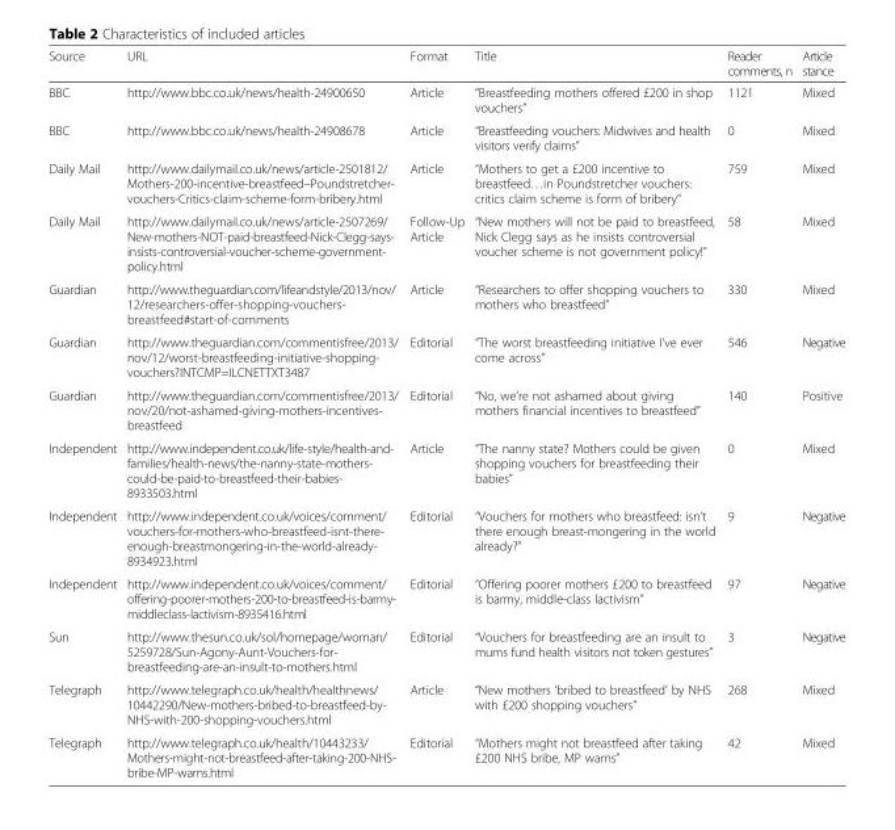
<table><thead><tr><td>Source</td><td>URL</td><td>Format</td><td>Title</td><td>Reader comments, n</td><td>Article stance</td></tr></thead><tbody><tr><td>BBC</td><td>http://www.bbc.co.uk/news/health-24900650</td><td>Article</td><td>“Breastfeeding mothers offered £200 in shop vouchers”</td><td>1121</td><td>Mixed</td></tr><tr><td>BBC</td><td>http://www.bbc.co.uk/news/health-24908678</td><td>Article</td><td>“Breastfeeding vouchers: Midwives and health visitors verify claims”</td><td>0</td><td>Mixed</td></tr><tr><td>Daily Mail</td><td>http://www.dailymail.co.uk/news/article-2501812/ Mothers-200-incentive-breastfeed–Poundstretcher- vouchers-Critics-claim-scheme-form-bribery.html</td><td>Article</td><td>“Mothers to get a £200 incentive to breastfeed…in Poundstretcher vouchers: critics claim scheme is form of bribery&quot;</td><td>759</td><td>Mixed</td></tr><tr><td>Daily Mail</td><td>http://www.dailymail.co.uk/news/article-2507269/ New-mothers-NOT-paid-breastfeed-Nick-Clegg-says- insists-controversial-voucher-scheme-government- policy.html</td><td>Follow-Up Article</td><td>“New mothers will not be paid to breastfeed, Nick Clegg says as he insists controversial voucher scheme is not government policy!”</td><td>58</td><td>Mixed</td></tr><tr><td>Guardian</td><td>http://www.theguardian.com/lifeandstyle/2013/nov/ 12/researchers-offer-shopping-vouchers- breastfeed#start-of-comments</td><td>Article</td><td>“Researchers to offer shopping vouchers to mothers who breastfeed”</td><td>330</td><td>Mixed</td></tr><tr><td>Guardian</td><td>http://www.theguardian.com/commentisfree/2013/ nov/12/worst-breastfeeding-initiative-shopping- vouchers?INTCMP=ILCNETTXT3487</td><td>Editorial</td><td>“The worst breastfeeding initiative I’ve ever come across”</td><td>546</td><td>Negative</td></tr><tr><td>Guardian</td><td>http://www.theguardian.com/commentisfree/2013/ nov/20/not-ashamed-giving-mothers-incentives- breastfeed</td><td>Editorial</td><td>“No, we’re not ashamed about giving mothers financial incentives to breastfeed”</td><td>140</td><td>Positive</td></tr><tr><td>Independent</td><td>http://www.independent.co.uk/life-style/health-and- families/health-news/the-nanny-state-mothers- could-be-paid-to-breastfeed-their-babies- 8933503.html</td><td>Article</td><td>“The nanny state? Mothers could be given shopping vouchers for breastfeeding their babies”</td><td>0</td><td>Mixed</td></tr><tr><td>Independent</td><td>http://www.independent.co.uk/voices/comment/ vouchers-for-mothers-who-breastfeed-isnt-there- enough-breastmongering-in-the-world-already- 8934923.html</td><td>Editorial</td><td>“Vouchers for mothers who breastfeed: isn’t there enough breast-mongering in the world already?”</td><td>9</td><td>Negative</td></tr><tr><td>Independent</td><td>http://www.independent.co.uk/voices/comment/ offering-poorer-mothers-200-to-breastfeed-is-barmy- middleclass-lactivism-8935416.html</td><td>Editorial</td><td>“Offering poorer mothers £200 to breastfeed is barmy, middle-class lactivism”</td><td>97</td><td>Negative</td></tr><tr><td>Sun</td><td>http://www.thesun.co.uk/sol/homepage/woman/ 5259728/Sun-Agony-Aunt-Vouchers-for- breastfeeding-are-an-insult-to-mothers.html</td><td>Editorial</td><td>“Vouchers for breastfeeding are an insult to mums fund health visitors not token gestures”</td><td>3</td><td>Negative</td></tr><tr><td>Telegraph</td><td>http://www.telegraph.co.uk/health/healthnews/ 10442290/New-mothers-bribed-to-breastfeed-by- NHS-with-200-shopping-vouchers.html</td><td>Article</td><td>“New mothers ‘bribed to breastfeed’ by NHS with £200 shopping vouchers”</td><td>268</td><td>Mixed</td></tr><tr><td>Telegraph</td><td>http://www.telegraph.co.uk/health/10443233/ Mothers-might-not-breastfeed-after-taking-200-NHS- bribe-MP-warns.html</td><td>Editorial</td><td>“Mothers might not breastfeed after taking £200 NHS bribe, MP warns”</td><td>42</td><td>Mixed</td></tr></tbody></table>